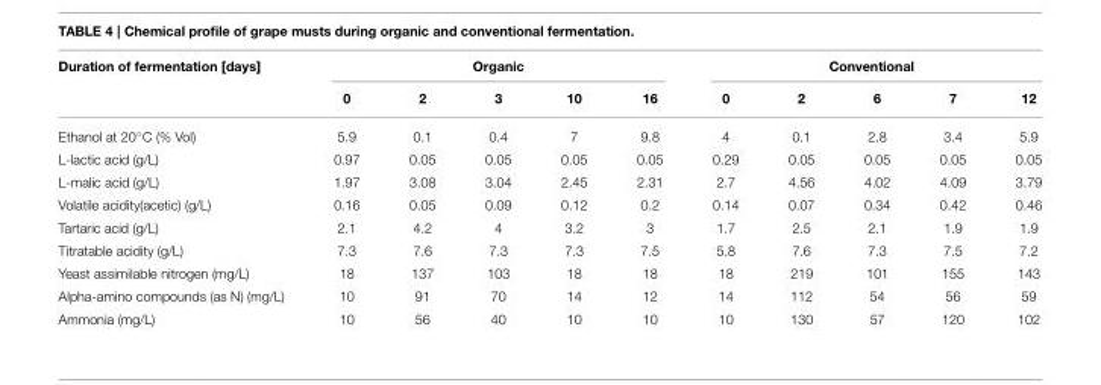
<table><thead><tr><td rowspan="2">Duration of fermentation [days]</td><td colspan="5">Organic</td><td colspan="5">Conventional</td></tr><tr><td>0</td><td>2</td><td>3</td><td>10</td><td>16</td><td>0</td><td>2</td><td>6</td><td>7</td><td>12</td></tr></thead><tbody><tr><td>Ethanol at 20◦C (% Vol)</td><td>5.9</td><td>0.1</td><td>0.4</td><td>7</td><td>9.8</td><td>4</td><td>0.1</td><td>2.8</td><td>3.4</td><td>5.9</td></tr><tr><td>L-lactic acid (g/L)</td><td>0.97</td><td>0.05</td><td>0.05</td><td>0.05</td><td>0.05</td><td>0.29</td><td>0.05</td><td>0.05</td><td>0.05</td><td>0.05</td></tr><tr><td>L-malic acid (g/L)</td><td>1.97</td><td>3.08</td><td>3.04</td><td>2.45</td><td>2.31</td><td>2.7</td><td>4.56</td><td>4.02</td><td>4.09</td><td>3.79</td></tr><tr><td>Volatile acidity(acetic) (g/L)</td><td>0.16</td><td>0.05</td><td>0.09</td><td>0.12</td><td>0.2</td><td>0.14</td><td>0.07</td><td>0.34</td><td>0.42</td><td>0.46</td></tr><tr><td>Tartaric acid (g/L)</td><td>2.1</td><td>4.2</td><td>4</td><td>3.2</td><td>3</td><td>1.7</td><td>2.5</td><td>2.1</td><td>1.9</td><td>1.9</td></tr><tr><td>Titratable acidity (g/L)</td><td>7.3</td><td>7.6</td><td>7.3</td><td>7.3</td><td>7.5</td><td>5.8</td><td>7.6</td><td>7.3</td><td>7.5</td><td>7.2</td></tr><tr><td>Yeast assimilable nitrogen (mg/L)</td><td>18</td><td>137</td><td>103</td><td>18</td><td>18</td><td>18</td><td>219</td><td>101</td><td>155</td><td>143</td></tr><tr><td>Alpha-amino compounds (as N) (mg/L)</td><td>10</td><td>91</td><td>70</td><td>14</td><td>12</td><td>14</td><td>112</td><td>54</td><td>56</td><td>59</td></tr><tr><td>Ammonia (mg/L)</td><td>10</td><td>56</td><td>40</td><td>10</td><td>10</td><td>10</td><td>130</td><td>57</td><td>120</td><td>102</td></tr></tbody></table>